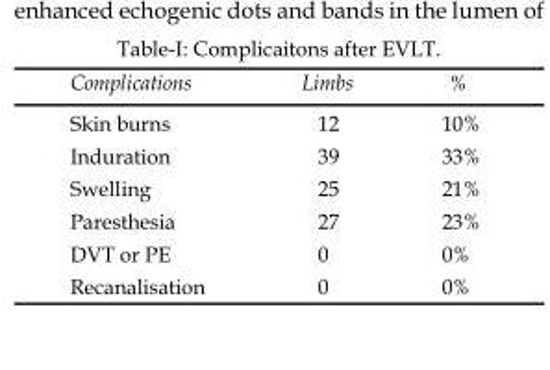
<table><thead><tr><td>Complications</td><td>Limbs</td><td>%</td></tr></thead><tbody><tr><td>Skin burns</td><td>12</td><td>10%</td></tr><tr><td>Induration</td><td>39</td><td>33%</td></tr><tr><td>Swelling</td><td>25</td><td>21%</td></tr><tr><td>Paresthesia</td><td>27</td><td>23%</td></tr><tr><td>DVT or PE</td><td>0</td><td>0%</td></tr><tr><td>Recanalisation</td><td>0</td><td>0%</td></tr></tbody></table>